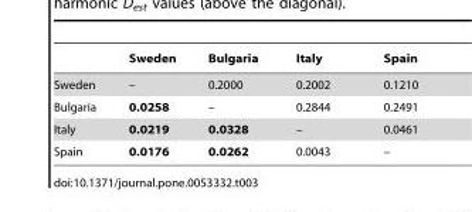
<table><thead><tr><td></td><td>Sweden</td><td>Bulgaria</td><td>Italy</td><td>Spain</td></tr></thead><tbody><tr><td>Sweden</td><td>–</td><td>0.2000</td><td>0.2002</td><td>0.1210</td></tr><tr><td>Bulgaria</td><td>0.0258</td><td>–</td><td>0.2844</td><td>0.2491</td></tr><tr><td>Italy</td><td>0.0219</td><td>0.0328</td><td>–</td><td>0.0461</td></tr><tr><td>Spain</td><td>0.0176</td><td>0.0262</td><td>0.0043</td><td>–</td></tr></tbody></table>